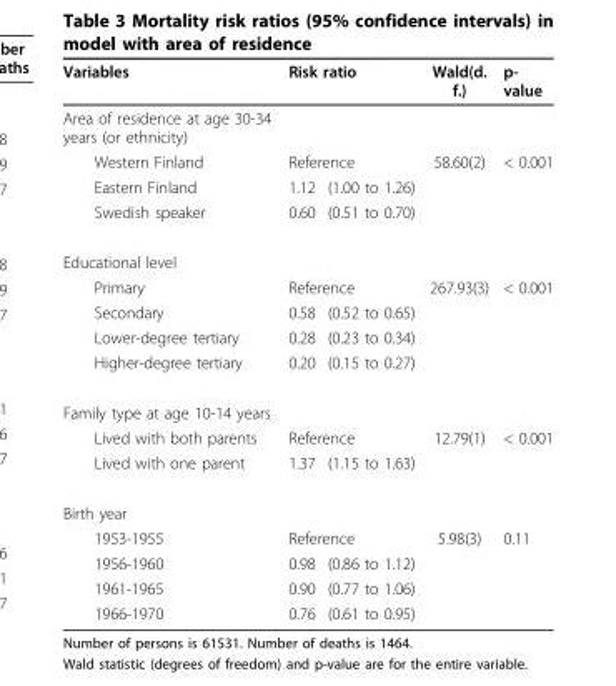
<table><thead><tr><td rowspan="2">Variables Area of residence at age 30-34 years (or ethnicity)</td><td colspan="2">Risk ratio</td><td rowspan="2">Wald(d. f.)</td><td rowspan="2">p- value</td></tr><tr><td></td><td></td></tr></thead><tbody><tr><td>Western Finland</td><td colspan="2">Reference</td><td>58.60(2)</td><td>&lt; 0.001</td></tr><tr><td>Eastern Finland</td><td>1.12</td><td>(1.00 to 1.26)</td><td></td><td></td></tr><tr><td>Swedish speaker</td><td>0.60</td><td>(0.51 to 0.70)</td><td></td><td></td></tr><tr><td colspan="5">Educational level</td></tr><tr><td>Primary</td><td colspan="2">Reference</td><td>267.93(3)</td><td>&lt; 0.001</td></tr><tr><td>Secondary</td><td>0.58</td><td>(0.52 to 0.65)</td><td></td><td></td></tr><tr><td>Lower-degree tertiary</td><td>0.28</td><td>(0.23 to 0.34)</td><td></td><td></td></tr><tr><td>Higher-degree tertiary</td><td>0.20</td><td>(0.15 to 0.27)</td><td></td><td></td></tr><tr><td colspan="5">Family type at age 10-14 years</td></tr><tr><td>Lived with both parents</td><td colspan="2">Reference</td><td>12.79(1)</td><td>&lt; 0.001</td></tr><tr><td>Lived with one parent</td><td>1.37</td><td>(1.15 to 1.63)</td><td></td><td></td></tr><tr><td colspan="5">Birth year</td></tr><tr><td>1953-1955</td><td colspan="2">Reference</td><td>5.98(3)</td><td>0.11</td></tr><tr><td>1956-1960</td><td>0.98</td><td>(0.86 to 1.12)</td><td></td><td></td></tr><tr><td>1961-1965</td><td>0.90</td><td>(0.77 to 1.06)</td><td></td><td></td></tr><tr><td>1966-1970</td><td>0.76</td><td>(0.61 to 0.95)</td><td></td><td></td></tr></tbody></table>